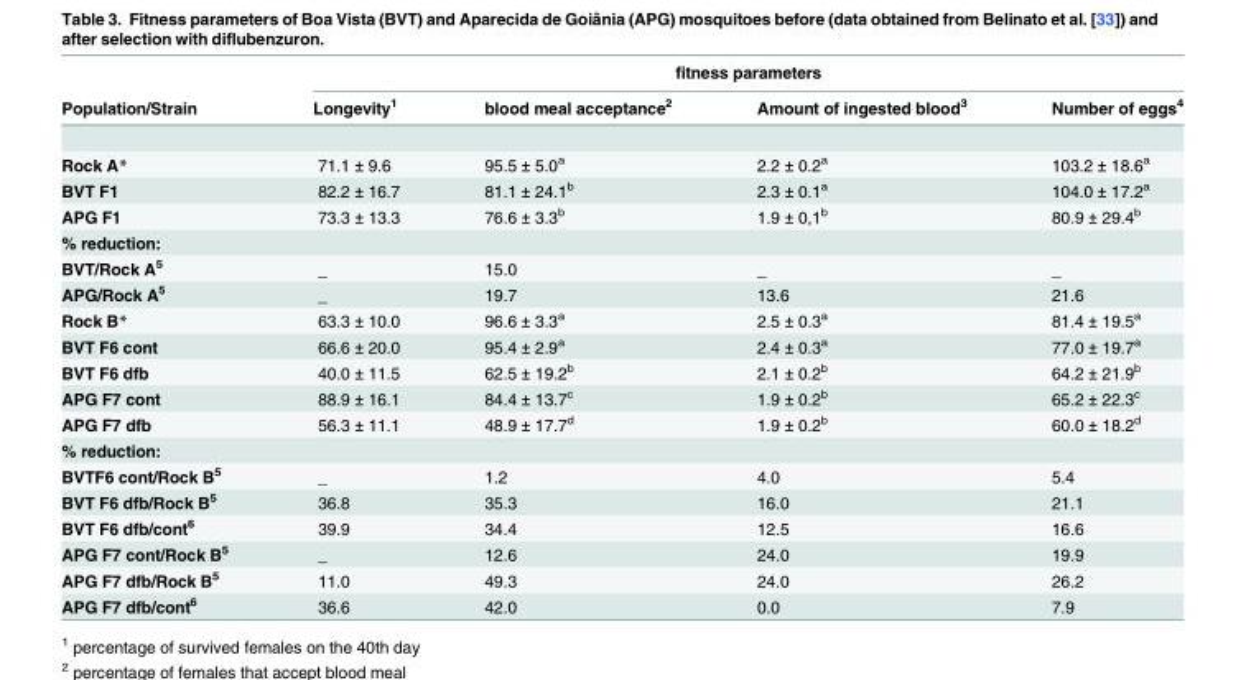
<table><thead><tr><td rowspan="2">Population/Strain</td><td colspan="4">fitness parameters</td></tr><tr><td>Longevity<sup>1</sup></td><td>blood meal acceptance<sup>2</sup></td><td>Amount of ingested blood<sup>3</sup></td><td>Number of eggs<sup>4</sup></td></tr></thead><tbody><tr><td>Rock A*</td><td>71.1 ± 9.6</td><td>95.5 ± 5.0<sup>a</sup></td><td>2.2 ± 0.2<sup>a</sup></td><td>103.2 ± 18.6<sup>a</sup></td></tr><tr><td>BVT F1</td><td>82.2 ± 16.7</td><td>81.1 ± 24.1<sup>b</sup></td><td>2.3 ± 0.1<sup>a</sup></td><td>104.0 ± 17.2<sup>a</sup></td></tr><tr><td>APG F1</td><td>73.3 ± 13.3</td><td>76.6 ± 3.3<sup>b</sup></td><td>1.9 ± 0,1<sup>b</sup></td><td>80.9 ± 29.4<sup>b</sup></td></tr><tr><td colspan="5">% reduction:</td></tr><tr><td>BVT/Rock A<sup>5</sup></td><td>_</td><td>15.0</td><td>_</td><td>_</td></tr><tr><td>APG/Rock A<sup>5</sup></td><td>_</td><td>19.7</td><td>13.6</td><td>21.6</td></tr><tr><td>Rock B*</td><td>63.3 ± 10.0</td><td>96.6 ± 3.3<sup>a</sup></td><td>2.5 ± 0.3<sup>a</sup></td><td>81.4 ± 19.5<sup>a</sup></td></tr><tr><td>BVT F6 cont</td><td>66.6 ± 20.0</td><td>95.4 ± 2.9<sup>a</sup></td><td>2.4 ± 0.3<sup>a</sup></td><td>77.0 ± 19.7<sup>a</sup></td></tr><tr><td>BVT F6 dfb</td><td>40.0 ± 11.5</td><td>62.5 ± 19.2<sup>b</sup></td><td>2.1 ± 0.2<sup>b</sup></td><td>64.2 ± 21.9<sup>b</sup></td></tr><tr><td>APG F7 cont</td><td>88.9 ± 16.1</td><td>84.4 ± 13.7<sup>c</sup></td><td>1.9 ± 0.2<sup>b</sup></td><td>65.2 ± 22.3<sup>c</sup></td></tr><tr><td>APG F7 dfb</td><td>56.3 ± 11.1</td><td>48.9 ± 17.7<sup>d</sup></td><td>1.9 ± 0.2<sup>b</sup></td><td>60.0 ± 18.2<sup>d</sup></td></tr><tr><td colspan="5">% reduction:</td></tr><tr><td>BVTF6 cont/Rock B<sup>5</sup></td><td>_</td><td>1.2</td><td>4.0</td><td>5.4</td></tr><tr><td>BVT F6 dfb/Rock B<sup>5</sup></td><td>36.8</td><td>35.3</td><td>16.0</td><td>21.1</td></tr><tr><td>BVT F6 dfb/cont<sup>6</sup></td><td>39.9</td><td>34.4</td><td>12.5</td><td>16.6</td></tr><tr><td>APG F7 cont/Rock B<sup>5</sup></td><td>_</td><td>12.6</td><td>24.0</td><td>19.9</td></tr><tr><td>APG F7 dfb/Rock B<sup>5</sup></td><td>11.0</td><td>49.3</td><td>24.0</td><td>26.2</td></tr><tr><td>APG F7 dfb/cont<sup>6</sup></td><td>36.6</td><td>42.0</td><td>0.0</td><td>7.9</td></tr></tbody></table>